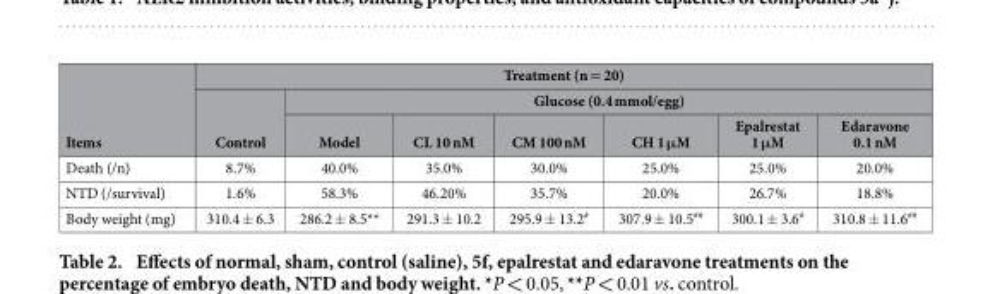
<table><thead><tr><td rowspan="3">Items</td><td colspan="7">Treatment (n = 20)</td></tr><tr><td rowspan="2">Control</td><td colspan="6">Glucose (0.4 mmol/egg)</td></tr><tr><td>Model</td><td>CL 10 nM</td><td>CM 100 nM</td><td>CH 1 μM</td><td>Epalrestat 1 μM</td><td>Edaravone 0.1 nM</td></tr></thead><tbody><tr><td>Death (/n)</td><td>8.7%</td><td>40.0%</td><td>35.0%</td><td>30.0%</td><td>25.0%</td><td>25.0%</td><td>20.0%</td></tr><tr><td>NTD (/survival)</td><td>1.6%</td><td>58.3%</td><td>46.20%</td><td>35.7%</td><td>20.0%</td><td>26.7%</td><td>18.8%</td></tr><tr><td>Body weight (mg)</td><td>310.4 ± 6.3</td><td>286.2 ± 8.5**</td><td>291.3 ± 10.2</td><td>295.9 ± 13.2#</td><td>307.9 ± 10.5##</td><td>300.1 ± 3.6#</td><td>310.8 ± 11.6##</td></tr></tbody></table>